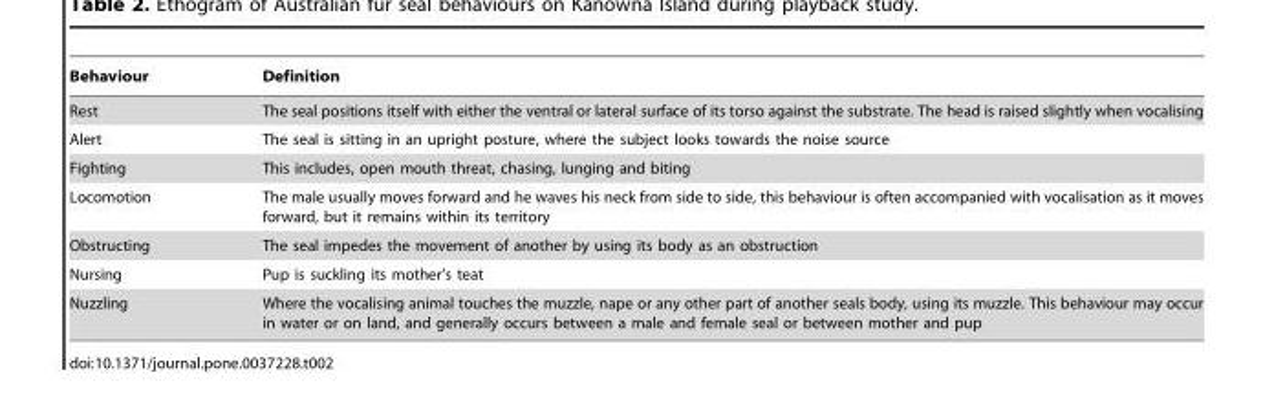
<table><thead><tr><td>Behaviour</td><td>Definition</td></tr></thead><tbody><tr><td>Rest</td><td>The seal positions itself with either the ventral or lateral surface of its torso against the substrate. The head is raised slightly when vocalising</td></tr><tr><td>Alert</td><td>The seal is sitting in an upright posture, where the subject looks towards the noise source</td></tr><tr><td>Fighting</td><td>This includes, open mouth threat, chasing, lunging and biting</td></tr><tr><td>Locomotion</td><td>The male usually moves forward and he waves his neck from side to side, this behaviour is often accompanied with vocalisation as it moves forward, but it remains within its territory</td></tr><tr><td>Obstructing</td><td>The seal impedes the movement of another by using its body as an obstruction</td></tr><tr><td>Nursing</td><td>Pup is suckling its mother’s teat</td></tr><tr><td>Nuzzling</td><td>Where the vocalising animal touches the muzzle, nape or any other part of another seals body, using its muzzle. This behaviour may occur in water or on land, and generally occurs between a male and female seal or between mother and pup</td></tr></tbody></table>